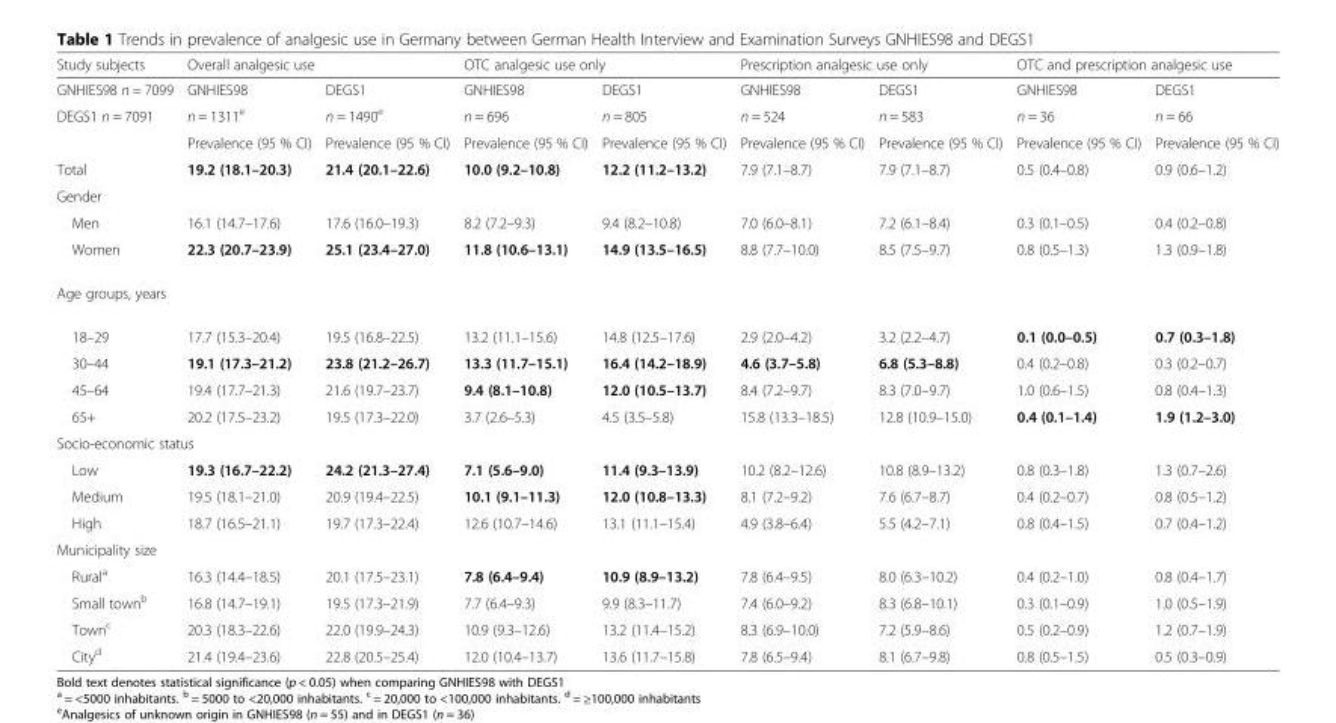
<table><thead><tr><td rowspan="2">Study subjects GNHIES98 n = 7099</td><td colspan="2">Overall analgesic use</td><td colspan="2">OTC analgesic use only</td><td colspan="2">Prescription analgesic use only</td><td colspan="2">OTC and prescription analgesic use</td></tr><tr><td>GNHIES98</td><td>DEGS1</td><td>GNHIES98</td><td>DEGS1</td><td>GNHIES98</td><td>DEGS1</td><td>GNHIES98</td><td>DEGS1</td></tr></thead><tbody><tr><td rowspan="2">DEGS1 n = 7091</td><td>n = 1311<sup>e</sup></td><td>n = 1490<sup>e</sup></td><td>n = 696</td><td>n = 805</td><td>n = 524</td><td>n = 583</td><td>n = 36</td><td>n = 66</td></tr><tr><td>Prevalence (95 % CI)</td><td>Prevalence (95 % CI)</td><td>Prevalence (95 % CI)</td><td>Prevalence (95 % CI)</td><td>Prevalence (95 % CI)</td><td>Prevalence (95 % CI)</td><td>Prevalence (95 % CI)</td><td>Prevalence (95 % CI)</td></tr><tr><td>Total</td><td>19.2 (18.1–20.3)</td><td>21.4 (20.1–22.6)</td><td>10.0 (9.2–10.8)</td><td>12.2 (11.2–13.2)</td><td>7.9 (7.1–8.7)</td><td>7.9 (7.1–8.7)</td><td>0.5 (0.4–0.8)</td><td>0.9 (0.6–1.2)</td></tr><tr><td colspan="9">Gender</td></tr><tr><td>Men</td><td>16.1 (14.7–17.6)</td><td>17.6 (16.0–19.3)</td><td>8.2 (7.2–9.3)</td><td>9.4 (8.2–10.8)</td><td>7.0 (6.0–8.1)</td><td>7.2 (6.1–8.4)</td><td>0.3 (0.1–0.5)</td><td>0.4 (0.2–0.8)</td></tr><tr><td>Women</td><td>22.3 (20.7–23.9)</td><td>25.1 (23.4–27.0)</td><td>11.8 (10.6–13.1)</td><td>14.9 (13.5–16.5)</td><td>8.8 (7.7–10.0)</td><td>8.5 (7.5–9.7)</td><td>0.8 (0.5–1.3)</td><td>1.3 (0.9–1.8)</td></tr><tr><td colspan="9">Age groups, years</td></tr><tr><td>18–29</td><td>17.7 (15.3–20.4)</td><td>19.5 (16.8–22.5)</td><td>13.2 (11.1–15.6)</td><td>14.8 (12.5–17.6)</td><td>2.9 (2.0–4.2)</td><td>3.2 (2.2–4.7)</td><td>0.1 (0.0–0.5)</td><td>0.7 (0.3–1.8)</td></tr><tr><td>30–44</td><td>19.1 (17.3–21.2)</td><td>23.8 (21.2–26.7)</td><td>13.3 (11.7–15.1)</td><td>16.4 (14.2–18.9)</td><td>4.6 (3.7–5.8)</td><td>6.8 (5.3–8.8)</td><td>0.4 (0.2–0.8)</td><td>0.3 (0.2–0.7)</td></tr><tr><td>45–64</td><td>19.4 (17.7–21.3)</td><td>21.6 (19.7–23.7)</td><td>9.4 (8.1–10.8)</td><td>12.0 (10.5–13.7)</td><td>8.4 (7.2–9.7)</td><td>8.3 (7.0–9.7)</td><td>1.0 (0.6–1.5)</td><td>0.8 (0.4–1.3)</td></tr><tr><td>65+</td><td>20.2 (17.5–23.2)</td><td>19.5 (17.3–22.0)</td><td>3.7 (2.6–5.3)</td><td>4.5 (3.5–5.8)</td><td>15.8 (13.3–18.5)</td><td>12.8 (10.9–15.0)</td><td>0.4 (0.1–1.4)</td><td>1.9 (1.2–3.0)</td></tr><tr><td colspan="9">Socio-economic status</td></tr><tr><td>Low</td><td>19.3 (16.7–22.2)</td><td>24.2 (21.3–27.4)</td><td>7.1 (5.6–9.0)</td><td>11.4 (9.3–13.9)</td><td>10.2 (8.2–12.6)</td><td>10.8 (8.9–13.2)</td><td>0.8 (0.3–1.8)</td><td>1.3 (0.7–2.6)</td></tr><tr><td>Medium</td><td>19.5 (18.1–21.0)</td><td>20.9 (19.4–22.5)</td><td>10.1 (9.1–11.3)</td><td>12.0 (10.8–13.3)</td><td>8.1 (7.2–9.2)</td><td>7.6 (6.7–8.7)</td><td>0.4 (0.2–0.7)</td><td>0.8 (0.5–1.2)</td></tr><tr><td>High</td><td>18.7 (16.5–21.1)</td><td>19.7 (17.3–22.4)</td><td>12.6 (10.7–14.6)</td><td>13.1 (11.1–15.4)</td><td>4.9 (3.8–6.4)</td><td>5.5 (4.2–7.1)</td><td>0.8 (0.4–1.5)</td><td>0.7 (0.4–1.2)</td></tr><tr><td colspan="9">Municipality size</td></tr><tr><td>Rural<sup>a</sup></td><td>16.3 (14.4–18.5)</td><td>20.1 (17.5–23.1)</td><td>7.8 (6.4–9.4)</td><td>10.9 (8.9–13.2)</td><td>7.8 (6.4–9.5)</td><td>8.0 (6.3–10.2)</td><td>0.4 (0.2–1.0)</td><td>0.8 (0.4–1.7)</td></tr><tr><td>Small town<sup>b</sup></td><td>16.8 (14.7–19.1)</td><td>19.5 (17.3–21.9)</td><td>7.7 (6.4–9.3)</td><td>9.9 (8.3–11.7)</td><td>7.4 (6.0–9.2)</td><td>8.3 (6.8–10.1)</td><td>0.3 (0.1–0.9)</td><td>1.0 (0.5–1.9)</td></tr><tr><td>Town<sup>c</sup></td><td>20.3 (18.3–22.6)</td><td>22.0 (19.9–24.3)</td><td>10.9 (9.3–12.6)</td><td>13.2 (11.4–15.2)</td><td>8.3 (6.9–10.0)</td><td>7.2 (5.9–8.6)</td><td>0.5 (0.2–0.9)</td><td>1.2 (0.7–1.9)</td></tr><tr><td>City<sup>d</sup></td><td>21.4 (19.4–23.6)</td><td>22.8 (20.5–25.4)</td><td>12.0 (10.4–13.7)</td><td>13.6 (11.7–15.8)</td><td>7.8 (6.5–9.4)</td><td>8.1 (6.7–9.8)</td><td>0.8 (0.5–1.5)</td><td>0.5 (0.3–0.9)</td></tr></tbody></table>